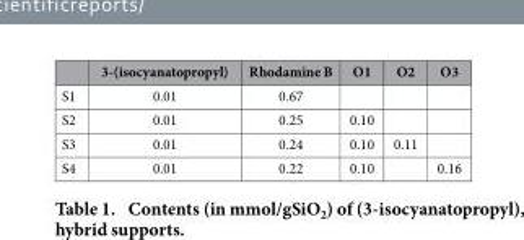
<table><thead><tr><td></td><td>3-(isocyanatopropyl)</td><td>Rhodamine B</td><td>O1</td><td>O2</td><td>O3</td></tr></thead><tbody><tr><td>S1</td><td>0.01</td><td>0.67</td><td></td><td></td><td></td></tr><tr><td>S2</td><td>0.01</td><td>0.25</td><td>0.10</td><td></td><td></td></tr><tr><td>S3</td><td>0.01</td><td>0.24</td><td>0.10</td><td>0.11</td><td></td></tr><tr><td>S4</td><td>0.01</td><td>0.22</td><td>0.10</td><td></td><td>0.16</td></tr></tbody></table>